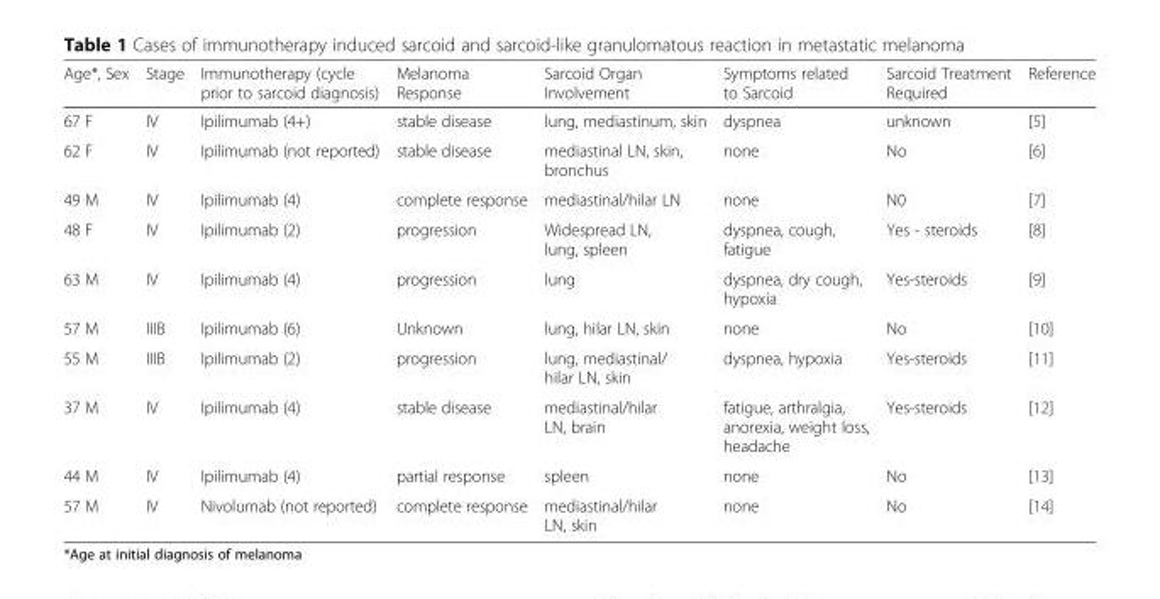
<table><thead><tr><td>Age*, Sex</td><td>Stage</td><td>Immunotherapy (cycle prior to sarcoid diagnosis)</td><td>Melanoma Response</td><td>Sarcoid Organ Involvement</td><td>Symptoms related to Sarcoid</td><td>Sarcoid Treatment Required</td><td>Reference</td></tr></thead><tbody><tr><td>67 F</td><td>IV</td><td>Ipilimumab (4+)</td><td>stable disease</td><td>lung, mediastinum, skin</td><td>dyspnea</td><td>unknown</td><td>[5]</td></tr><tr><td>62 F</td><td>IV</td><td>Ipilimumab (not reported)</td><td>stable disease</td><td>mediastinal LN, skin, bronchus</td><td>none</td><td>No</td><td>[6]</td></tr><tr><td>49 M</td><td>IV</td><td>Ipilimumab (4)</td><td>complete response</td><td>mediastinal/hilar LN</td><td>none</td><td>N0</td><td>[7]</td></tr><tr><td>48 F</td><td>IV</td><td>Ipilimumab (2)</td><td>progression</td><td>Widespread LN, lung, spleen</td><td>dyspnea, cough, fatigue</td><td>Yes - steroids</td><td>[8]</td></tr><tr><td>63 M</td><td>IV</td><td>Ipilimumab (4)</td><td>progression</td><td>lung</td><td>dyspnea, dry cough, hypoxia</td><td>Yes-steroids</td><td>[9]</td></tr><tr><td>57 M</td><td>IIIB</td><td>Ipilimumab (6)</td><td>Unknown</td><td>lung, hilar LN, skin</td><td>none</td><td>No</td><td>[10]</td></tr><tr><td>55 M</td><td>IIIB</td><td>Ipilimumab (2)</td><td>progression</td><td>lung, mediastinal/ hilar LN, skin</td><td>dyspnea, hypoxia</td><td>Yes-steroids</td><td>[11]</td></tr><tr><td>37 M</td><td>IV</td><td>Ipilimumab (4)</td><td>stable disease</td><td>mediastinal/hilar LN, brain</td><td>fatigue, arthralgia, anorexia, weight loss, headache</td><td>Yes-steroids</td><td>[12]</td></tr><tr><td>44 M</td><td>IV</td><td>Ipilimumab (4)</td><td>partial response</td><td>spleen</td><td>none</td><td>No</td><td>[13]</td></tr><tr><td>57 M</td><td>IV</td><td>Nivolumab (not reported)</td><td>complete response</td><td>mediastinal/hilar LN, skin</td><td>none</td><td>No</td><td>[14]</td></tr></tbody></table>